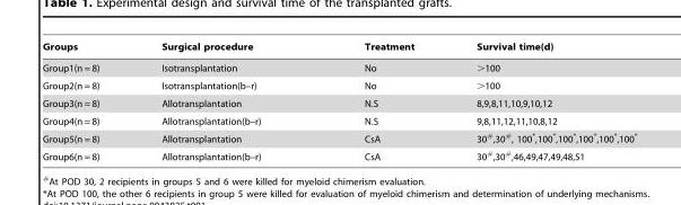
<table><thead><tr><td>Groups</td><td>Surgical procedure</td><td>Treatment</td><td>Survival time(d)</td></tr></thead><tbody><tr><td>Group1(n = 8)</td><td>Isotransplantation</td><td>No</td><td>&gt;100</td></tr><tr><td>Group2(n = 8)</td><td>Isotransplantation(b–r)</td><td>No</td><td>&gt;100</td></tr><tr><td>Group3(n = 8)</td><td>Allotransplantation</td><td>N.S</td><td>8,9,8,11,10,9,10,12</td></tr><tr><td>Group4(n = 8)</td><td>Allotransplantation(b–r)</td><td>N.S</td><td>9,8,11,12,11,10,8,12</td></tr><tr><td>Group5(n = 8)</td><td>Allotransplantation</td><td>CsA</td><td>30#,30#, 100*,100*,100*,100*,100*,100*</td></tr><tr><td>Group6(n = 8)</td><td>Allotransplantation(b–r)</td><td>CsA</td><td>30#,30#,46,49,47,49,48,51</td></tr></tbody></table>